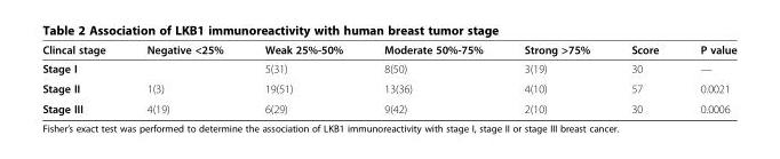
<table><thead><tr><td>Clincal stage</td><td>Negative &lt;25%</td><td>Weak 25%-50%</td><td>Moderate 50%-75%</td><td>Strong &gt;75%</td><td>Score</td><td>P value</td></tr></thead><tbody><tr><td>Stage I</td><td></td><td>5(31)</td><td>8(50)</td><td>3(19)</td><td>30</td><td>—</td></tr><tr><td>Stage II</td><td>1(3)</td><td>19(51)</td><td>13(36)</td><td>4(10)</td><td>57</td><td>0.0021</td></tr><tr><td>Stage III</td><td>4(19)</td><td>6(29)</td><td>9(42)</td><td>2(10)</td><td>30</td><td>0.0006</td></tr></tbody></table>